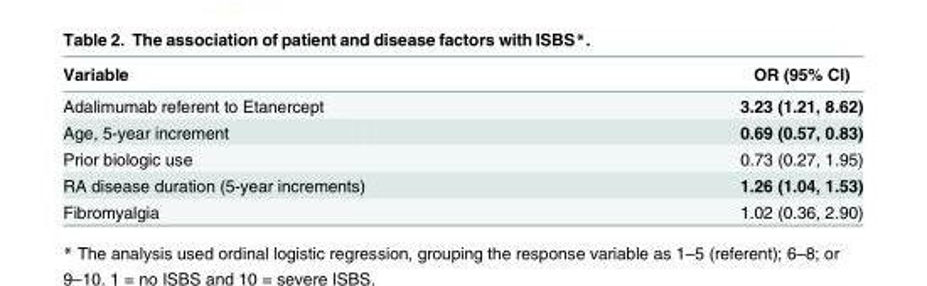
<table><thead><tr><td>Variable</td><td>OR (95% CI)</td></tr></thead><tbody><tr><td>Adalimumab referent to Etanercept</td><td>3.23 (1.21, 8.62)</td></tr><tr><td>Age, 5-year increment</td><td>0.69 (0.57, 0.83)</td></tr><tr><td>Prior biologic use</td><td>0.73 (0.27, 1.95)</td></tr><tr><td>RA disease duration (5-year increments)</td><td>1.26 (1.04, 1.53)</td></tr><tr><td>Fibromyalgia</td><td>1.02 (0.36, 2.90)</td></tr></tbody></table>